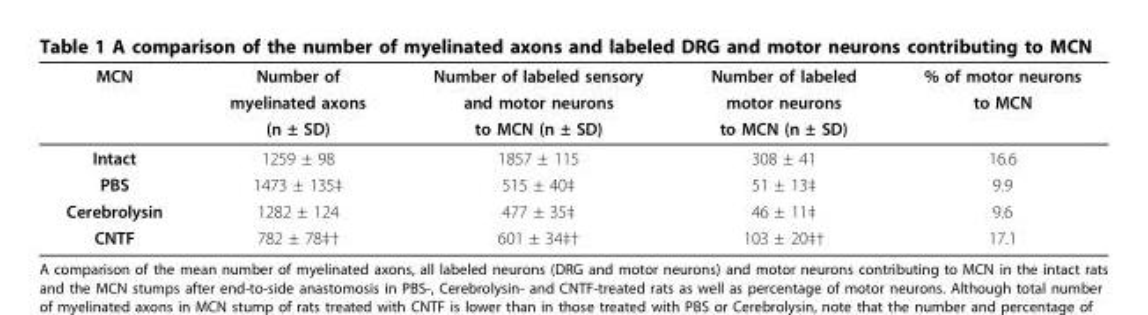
<table><thead><tr><td rowspan="3">MCN</td><td rowspan="3">Number of myelinated axons (n ± SD)</td><td rowspan="3">Number of labeled sensory and motor neurons to MCN (n ± SD)</td><td rowspan="3">Number of labeled motor neurons to MCN (n ± SD)</td><td rowspan="3">% of motor neurons to MCN</td></tr><tr></tr><tr></tr></thead><tbody><tr><td>Intact</td><td>1259 ± 98</td><td>1857 ± 115</td><td>308 ± 41</td><td>16.6</td></tr><tr><td>PBS</td><td>1473 ± 135‡</td><td>515 ± 40‡</td><td>51 ± 13‡</td><td>9.9</td></tr><tr><td>Cerebrolysin</td><td>1282 ± 124</td><td>477 ± 35‡</td><td>46 ± 11‡</td><td>9.6</td></tr><tr><td>CNTF</td><td>782 ± 78‡†</td><td>601 ± 34‡†</td><td>103 ± 20‡†</td><td>17.1</td></tr></tbody></table>